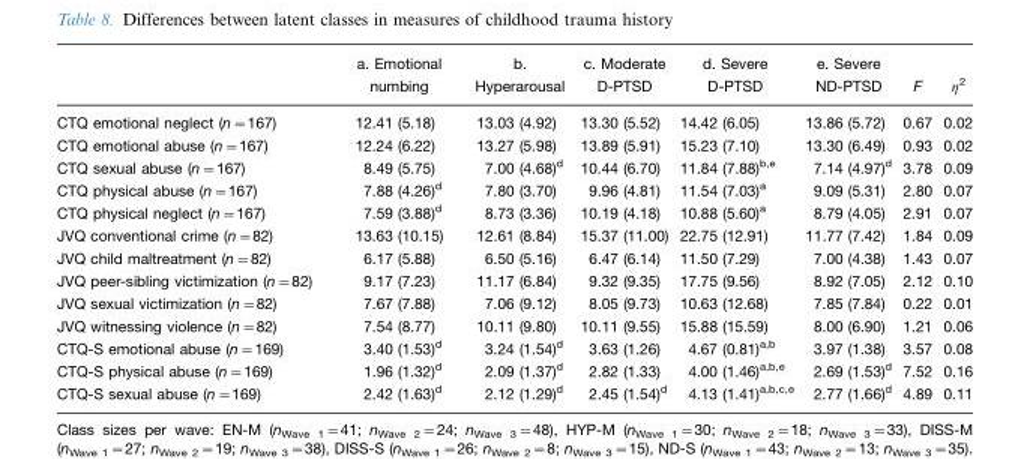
<table><thead><tr><td></td><td>a. Emotional numbing</td><td>b. Hyperarousal</td><td>c. Moderate D-PTSD</td><td>d. Severe D-PTSD</td><td>e. Severe ND-PTSD</td><td>F</td><td>η<sup>2</sup></td></tr></thead><tbody><tr><td>CTQ emotional neglect (n=167)</td><td>12.41 (5.18)</td><td>13.03 (4.92)</td><td>13.30 (5.52)</td><td>14.42 (6.05)</td><td>13.86 (5.72)</td><td>0.67</td><td>0.02</td></tr><tr><td>CTQ emotional abuse (n=167)</td><td>12.24 (6.22)</td><td>13.27 (5.98)</td><td>13.89 (5.91)</td><td>15.23 (7.10)</td><td>13.30 (6.49)</td><td>0.93</td><td>0.02</td></tr><tr><td>CTQ sexual abuse (n=167)</td><td>8.49 (5.75)</td><td>7.00 (4.68)<sup>d</sup></td><td>10.44 (6.70)</td><td>11.84 (7.88)<sup>b</sup>,<sup>e</sup></td><td>7.14 (4.97)<sup>d</sup></td><td>3.78</td><td>0.09</td></tr><tr><td>CTQ physical abuse (n=167)</td><td>7.88 (4.26)<sup>d</sup></td><td>7.80 (3.70)</td><td>9.96 (4.81)</td><td>11.54 (7.03)<sup>a</sup></td><td>9.09 (5.31)</td><td>2.80</td><td>0.07</td></tr><tr><td>CTQ physical neglect (n=167)</td><td>7.59 (3.88)<sup>d</sup></td><td>8.73 (3.36)</td><td>10.19 (4.18)</td><td>10.88 (5.60)<sup>a</sup></td><td>8.79 (4.05)</td><td>2.91</td><td>0.07</td></tr><tr><td>JVQ conventional crime (n=82)</td><td>13.63 (10.15)</td><td>12.61 (8.84)</td><td>15.37 (11.00)</td><td>22.75 (12.91)</td><td>11.77 (7.42)</td><td>1.84</td><td>0.09</td></tr><tr><td>JVQ child maltreatment (n=82)</td><td>6.17 (5.88)</td><td>6.50 (5.16)</td><td>6.47 (6.14)</td><td>11.50 (7.29)</td><td>7.00 (4.38)</td><td>1.43</td><td>0.07</td></tr><tr><td>JVQ peer-sibling victimization (n=82)</td><td>9.17 (7.23)</td><td>11.17 (6.84)</td><td>9.32 (9.35)</td><td>17.75 (9.56)</td><td>8.92 (7.05)</td><td>2.12</td><td>0.10</td></tr><tr><td>JVQ sexual victimization (n=82)</td><td>7.67 (7.88)</td><td>7.06 (9.12)</td><td>8.05 (9.73)</td><td>10.63 (12.68)</td><td>7.85 (7.84)</td><td>0.22</td><td>0.01</td></tr><tr><td>JVQ witnessing violence (n=82)</td><td>7.54 (8.77)</td><td>10.11 (9.80)</td><td>10.11 (9.55)</td><td>15.88 (15.59)</td><td>8.00 (6.90)</td><td>1.21</td><td>0.06</td></tr><tr><td>CTQ-S emotional abuse (n=169)</td><td>3.40 (1.53)<sup>d</sup></td><td>3.24 (1.54)<sup>d</sup></td><td>3.63 (1.26)</td><td>4.67 (0.81)<sup>a</sup>,<sup>b</sup></td><td>3.97 (1.38)</td><td>3.57</td><td>0.08</td></tr><tr><td>CTQ-S physical abuse (n=169)</td><td>1.96 (1.32)<sup>d</sup></td><td>2.09 (1.37)<sup>d</sup></td><td>2.82 (1.33)</td><td>4.00 (1.46)<sup>a</sup>,<sup>b</sup>,<sup>e</sup></td><td>2.69 (1.53)<sup>d</sup></td><td>7.52</td><td>0.16</td></tr><tr><td>CTQ-S sexual abuse (n=169)</td><td>2.42 (1.63)<sup>d</sup></td><td>2.12 (1.29)<sup>d</sup></td><td>2.45 (1.54)<sup>d</sup></td><td>4.13 (1.41)<sup>a</sup>,<sup>b</sup>,<sup>c</sup>,<sup>e</sup></td><td>2.77 (1.66)<sup>d</sup></td><td>4.89</td><td>0.11</td></tr></tbody></table>